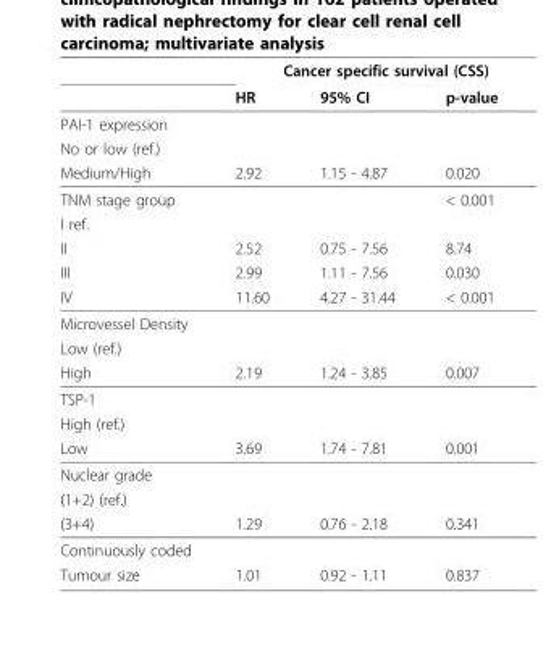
<table><thead><tr><td rowspan="2"></td><td colspan="3">Cancer specific survival (CSS)</td></tr><tr><td>HR</td><td>95% CI</td><td>p-value</td></tr></thead><tbody><tr><td colspan="4">PAI-1 expression</td></tr><tr><td colspan="4">No or low (ref.)</td></tr><tr><td>Medium/High</td><td>2.92</td><td>1.15 - 4.87</td><td>0.020</td></tr><tr><td>TNM stage group</td><td></td><td></td><td>&lt; 0.001</td></tr><tr><td colspan="4">I ref.</td></tr><tr><td>II</td><td>2.52</td><td>0.75 - 7.56</td><td>8.74</td></tr><tr><td>III</td><td>2.99</td><td>1.11 - 7.56</td><td>0.030</td></tr><tr><td>IV</td><td>11.60</td><td>4.27 - 31.44</td><td>&lt; 0.001</td></tr><tr><td colspan="4">Microvessel Density</td></tr><tr><td colspan="4">Low (ref.)</td></tr><tr><td>High</td><td>2.19</td><td>1.24 - 3.85</td><td>0.007</td></tr><tr><td colspan="4">TSP-1</td></tr><tr><td colspan="4">High (ref.)</td></tr><tr><td>Low</td><td>3.69</td><td>1.74 - 7.81</td><td>0.001</td></tr><tr><td colspan="4">Nuclear grade</td></tr><tr><td colspan="4">(1+2) (ref.)</td></tr><tr><td>(3+4)</td><td>1.29</td><td>0.76 - 2.18</td><td>0.341</td></tr><tr><td colspan="4">Continuously coded</td></tr><tr><td>Tumour size</td><td>1.01</td><td>0.92 - 1.11</td><td>0.837</td></tr></tbody></table>